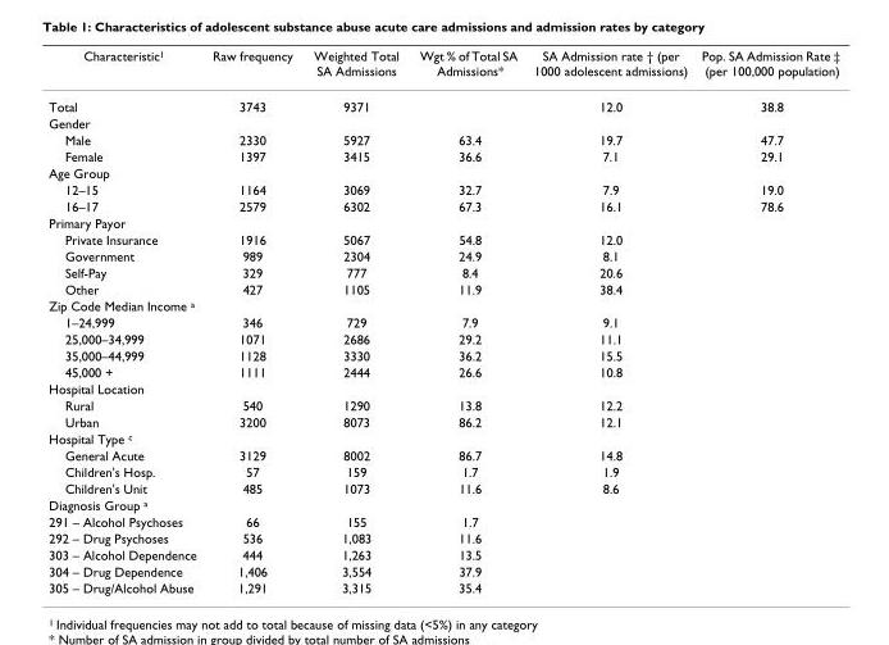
<table><thead><tr><td>Characteristic<sup>1</sup></td><td>Raw frequency</td><td>Weighted Total SA Admissions</td><td>Wgt % of Total SA Admissions*</td><td>SA Admission rate † (per 1000 adolescent admissions)</td><td>Pop. SA Admission Rate ‡ (per 100,000 population)</td></tr></thead><tbody><tr><td>Total</td><td>3743</td><td>9371</td><td></td><td>12.0</td><td>38.8</td></tr><tr><td colspan="6">Gender</td></tr><tr><td>Male</td><td>2330</td><td>5927</td><td>63.4</td><td>19.7</td><td>47.7</td></tr><tr><td>Female</td><td>1397</td><td>3415</td><td>36.6</td><td>7.1</td><td>29.1</td></tr><tr><td colspan="6">Age Group</td></tr><tr><td>12–15</td><td>1164</td><td>3069</td><td>32.7</td><td>7.9</td><td>19.0</td></tr><tr><td>16–17</td><td>2579</td><td>6302</td><td>67.3</td><td>16.1</td><td>78.6</td></tr><tr><td colspan="6">Primary Payor</td></tr><tr><td>Private Insurance</td><td>1916</td><td>5067</td><td>54.8</td><td>12.0</td><td></td></tr><tr><td>Government</td><td>989</td><td>2304</td><td>24.9</td><td>8.1</td><td></td></tr><tr><td>Self-Pay</td><td>329</td><td>777</td><td>8.4</td><td>20.6</td><td></td></tr><tr><td>Other</td><td>427</td><td>1105</td><td>11.9</td><td>38.4</td><td></td></tr><tr><td colspan="6">Zip Code Median Income <sup>a</sup></td></tr><tr><td>1–24,999</td><td>346</td><td>729</td><td>7.9</td><td>9.1</td><td></td></tr><tr><td>25,000–34,999</td><td>1071</td><td>2686</td><td>29.2</td><td>11.1</td><td></td></tr><tr><td>35,000–44,999</td><td>1128</td><td>3330</td><td>36.2</td><td>15.5</td><td></td></tr><tr><td>45,000 +</td><td>1111</td><td>2444</td><td>26.6</td><td>10.8</td><td></td></tr><tr><td colspan="6">Hospital Location</td></tr><tr><td>Rural</td><td>540</td><td>1290</td><td>13.8</td><td>12.2</td><td></td></tr><tr><td>Urban</td><td>3200</td><td>8073</td><td>86.2</td><td>12.1</td><td></td></tr><tr><td colspan="6">Hospital Type <sup>c</sup></td></tr><tr><td>General Acute</td><td>3129</td><td>8002</td><td>86.7</td><td>14.8</td><td></td></tr><tr><td>Children&#x27;s Hosp.</td><td>57</td><td>159</td><td>1.7</td><td>1.9</td><td></td></tr><tr><td>Children&#x27;s Unit</td><td>485</td><td>1073</td><td>11.6</td><td>8.6</td><td></td></tr><tr><td colspan="6">Diagnosis Group <sup>a</sup></td></tr><tr><td>291 – Alcohol Psychoses</td><td>66</td><td>155</td><td>1.7</td><td></td><td></td></tr><tr><td>292 – Drug Psychoses</td><td>536</td><td>1,083</td><td>11.6</td><td></td><td></td></tr><tr><td>303 – Alcohol Dependence</td><td>444</td><td>1,263</td><td>13.5</td><td></td><td></td></tr><tr><td>304 – Drug Dependence</td><td>1,406</td><td>3,554</td><td>37.9</td><td></td><td></td></tr><tr><td>305 – Drug/Alcohol Abuse</td><td>1,291</td><td>3,315</td><td>35.4</td><td></td><td></td></tr></tbody></table>